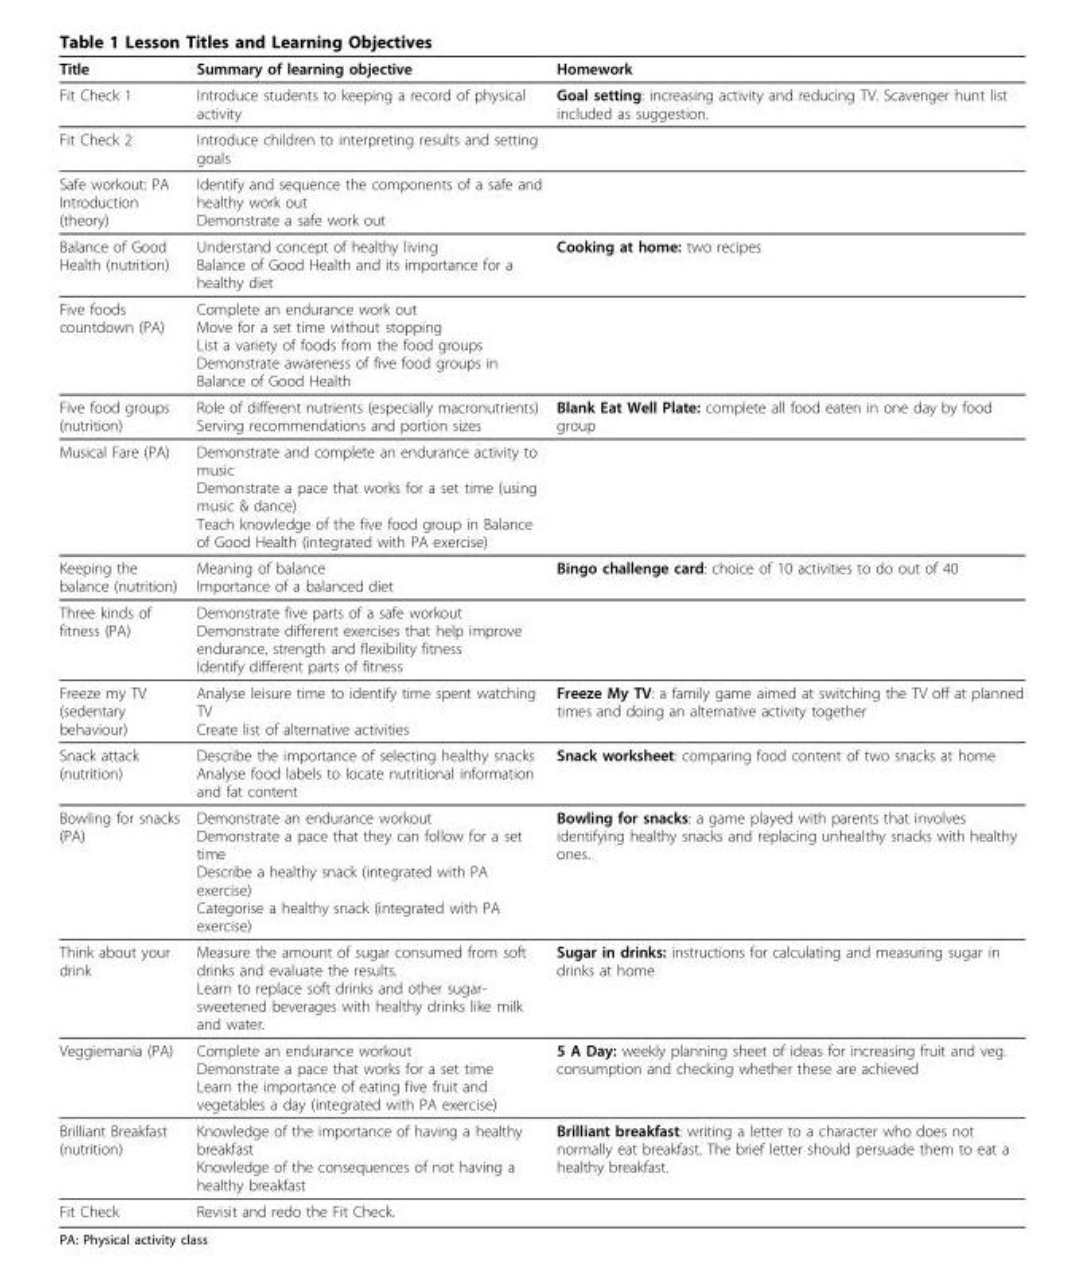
<table><thead><tr><td>Title</td><td>Summary of learning objective</td><td>Homework</td></tr></thead><tbody><tr><td>Fit Check 1</td><td>Introduce students to keeping a record of physical activity</td><td>Goal setting: increasing activity and reducing TV. Scavenger hunt list included as suggestion.</td></tr><tr><td>Fit Check 2</td><td>Introduce children to interpreting results and setting goals</td><td></td></tr><tr><td>Safe workout: PA Introduction (theory)</td><td>Identify and sequence the components of a safe and healthy work out Demonstrate a safe work out</td><td></td></tr><tr><td>Balance of Good Health (nutrition)</td><td>Understand concept of healthy living Balance of Good Health and its importance for a healthy diet</td><td>Cooking at home: two recipes</td></tr><tr><td>Five foods countdown (PA)</td><td>Complete an endurance work out Move for a set time without stopping List a variety of foods from the food groups Demonstrate awareness of five food groups in Balance of Good Health</td><td></td></tr><tr><td>Five food groups (nutrition)</td><td>Role of different nutrients (especially macronutrients) Serving recommendations and portion sizes</td><td>Blank Eat Well Plate: complete all food eaten in one day by food group</td></tr><tr><td>Musical Fare (PA)</td><td>Demonstrate and complete an endurance activity to music Demonstrate a pace that works for a set time (using music &amp; dance) Teach knowledge of the five food group in Balance of Good Health (integrated with PA exercise)</td><td></td></tr><tr><td>Keeping the balance (nutrition)</td><td>Meaning of balance Importance of a balanced diet</td><td>Bingo challenge card: choice of 10 activities to do out of 40</td></tr><tr><td>Three kinds of fitness (PA)</td><td>Demonstrate five parts of a safe workout Demonstrate different exercises that help improve endurance, strength and flexibility fitness Identify different parts of fitness</td><td></td></tr><tr><td>Freeze my TV (sedentary behaviour)</td><td>Analyse leisure time to identify time spent watching TV Create list of alternative activities</td><td>Freeze My TV: a family game aimed at switching the TV off at planned times and doing an alternative activity together</td></tr><tr><td>Snack attack (nutrition)</td><td>Describe the importance of selecting healthy snacks Analyse food labels to locate nutritional information and fat content</td><td>Snack worksheet: comparing food content of two snacks at home</td></tr><tr><td>Bowling for snacks (PA)</td><td>Demonstrate an endurance workout Demonstrate a pace that they can follow for a set time Describe a healthy snack (integrated with PA exercise) Categorise a healthy snack (integrated with PA exercise)</td><td>Bowling for snacks: a game played with parents that involves identifying healthy snacks and replacing unhealthy snacks with healthy ones.</td></tr><tr><td>Think about your drink</td><td>Measure the amount of sugar consumed from soft drinks and evaluate the results. Learn to replace soft drinks and other sugar- sweetened beverages with healthy drinks like milk and water.</td><td>Sugar in drinks: instructions for calculating and measuring sugar in drinks at home</td></tr><tr><td>Veggiemania (PA)</td><td>Complete an endurance workout Demonstrate a pace that works for a set time Learn the importance of eating five fruit and vegetables a day (integrated with PA exercise)</td><td>5 A Day: weekly planning sheet of ideas for increasing fruit and veg. consumption and checking whether these are achieved</td></tr><tr><td>Brilliant Breakfast (nutrition)</td><td>Knowledge of the importance of having a healthy breakfast Knowledge of the consequences of not having a healthy breakfast</td><td>Brilliant breakfast: writing a letter to a character who does not normally eat breakfast. The brief letter should persuade them to eat a healthy breakfast.</td></tr><tr><td>Fit Check</td><td>Revisit and redo the Fit Check.</td><td></td></tr></tbody></table>